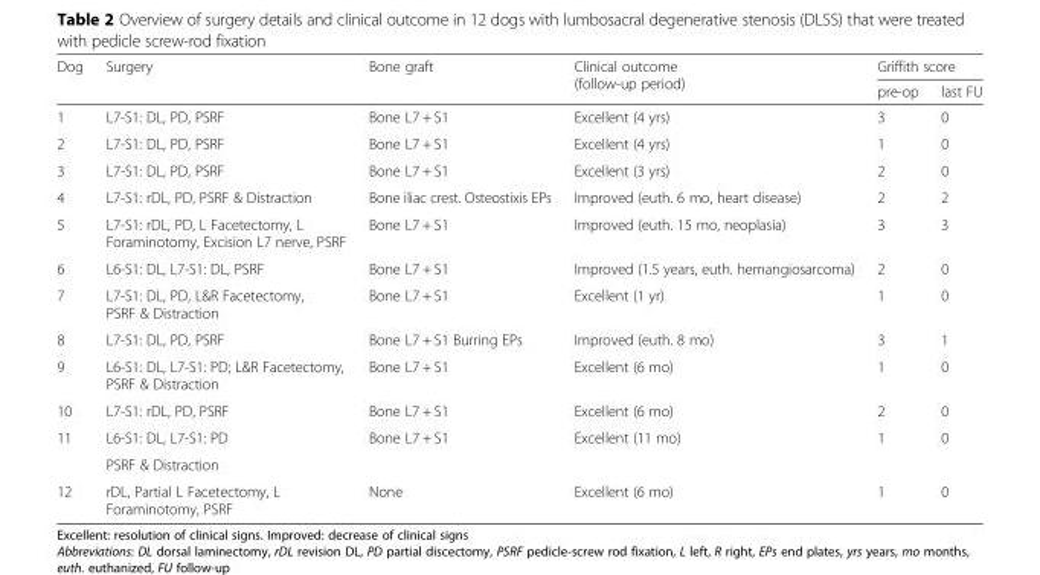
<table><thead><tr><td rowspan="2">Dog</td><td rowspan="2">Surgery</td><td rowspan="2">Bone graft</td><td rowspan="2">Clinical outcome (follow-up period)</td><td colspan="2">Griffith score</td></tr><tr><td>pre-op</td><td>last FU</td></tr></thead><tbody><tr><td>1</td><td>L7-S1: DL, PD, PSRF</td><td>Bone L7 + S1</td><td>Excellent (4 yrs)</td><td>3</td><td>0</td></tr><tr><td>2</td><td>L7-S1: DL, PD, PSRF</td><td>Bone L7 + S1</td><td>Excellent (4 yrs)</td><td>1</td><td>0</td></tr><tr><td>3</td><td>L7-S1: DL, PD, PSRF</td><td>Bone L7 + S1</td><td>Excellent (3 yrs)</td><td>2</td><td>0</td></tr><tr><td>4</td><td>L7-S1: rDL, PD, PSRF &amp; Distraction</td><td>Bone iliac crest. Osteostixis EPs</td><td>Improved (euth. 6 mo, heart disease)</td><td>2</td><td>2</td></tr><tr><td>5</td><td>L7-S1: rDL, PD, L Facetectomy, L Foraminotomy, Excision L7 nerve, PSRF</td><td>Bone L7 + S1</td><td>Improved (euth. 15 mo, neoplasia)</td><td>3</td><td>3</td></tr><tr><td>6</td><td>L6-S1: DL, L7-S1: DL, PSRF</td><td>Bone L7 + S1</td><td>Improved (1.5 years, euth. hemangiosarcoma)</td><td>2</td><td>0</td></tr><tr><td>7</td><td>L7-S1: DL, PD, L&amp;R Facetectomy, PSRF &amp; Distraction</td><td>Bone L7 + S1</td><td>Excellent (1 yr)</td><td>1</td><td>0</td></tr><tr><td>8</td><td>L7-S1: DL, PD, PSRF</td><td>Bone L7 + S1 Burring EPs</td><td>Improved (euth. 8 mo)</td><td>3</td><td>1</td></tr><tr><td>9</td><td>L6-S1: DL, L7-S1: PD; L&amp;R Facetectomy, PSRF &amp; Distraction</td><td>Bone L7 + S1</td><td>Excellent (6 mo)</td><td>1</td><td>0</td></tr><tr><td>10</td><td>L7-S1: rDL, PD, PSRF</td><td>Bone L7 + S1</td><td>Excellent (6 mo)</td><td>2</td><td>0</td></tr><tr><td rowspan="2">11</td><td>L6-S1: DL, L7-S1: PD</td><td rowspan="2">Bone L7 + S1</td><td rowspan="2">Excellent (11 mo)</td><td rowspan="2">1</td><td rowspan="2">0</td></tr><tr><td>PSRF &amp; Distraction</td></tr><tr><td>12</td><td>rDL, Partial L Facetectomy, L Foraminotomy, PSRF</td><td>None</td><td>Excellent (6 mo)</td><td>1</td><td>0</td></tr></tbody></table>